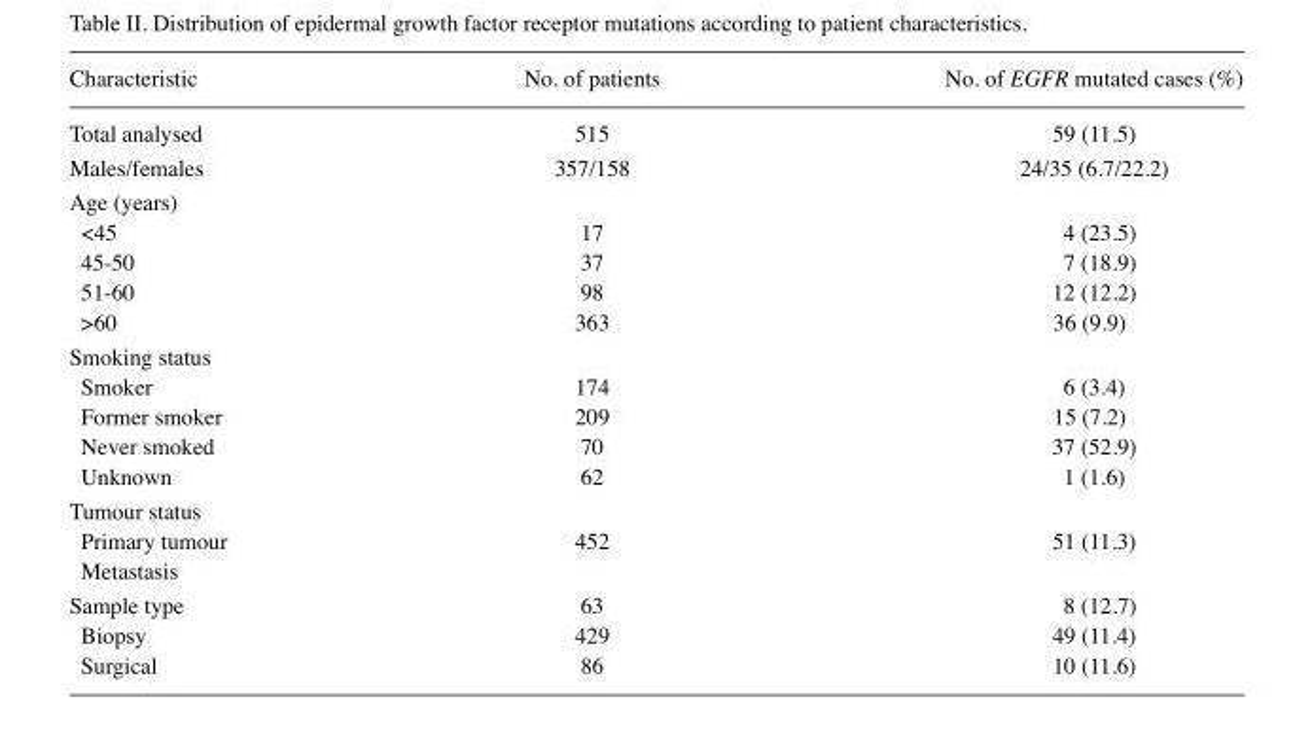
<table><thead><tr><td>Characteristic</td><td>No. of patients</td><td>No. of EGFR mutated cases (%)</td></tr></thead><tbody><tr><td>Total analysed</td><td>515</td><td>59 (11.5)</td></tr><tr><td>Males/females</td><td>357/158</td><td>24/35 (6.7/22.2)</td></tr><tr><td colspan="3">Age (years)</td></tr><tr><td>&lt;45</td><td>17</td><td>4 (23.5)</td></tr><tr><td>45‑50</td><td>37</td><td>7 (18.9)</td></tr><tr><td>51‑60</td><td>98</td><td>12 (12.2)</td></tr><tr><td>&gt;60</td><td>363</td><td>36 (9.9)</td></tr><tr><td colspan="3">Smoking status</td></tr><tr><td>Smoker</td><td>174</td><td>6 (3.4)</td></tr><tr><td>Former smoker</td><td>209</td><td>15 (7.2)</td></tr><tr><td>Never smoked</td><td>70</td><td>37 (52.9)</td></tr><tr><td>Unknown</td><td>62</td><td>1 (1.6)</td></tr><tr><td colspan="3">Tumour status</td></tr><tr><td>Primary tumour</td><td>452</td><td>51 (11.3)</td></tr><tr><td colspan="3">Metastasis</td></tr><tr><td>Sample type</td><td>63</td><td>8 (12.7)</td></tr><tr><td>Biopsy</td><td>429</td><td>49 (11.4)</td></tr><tr><td>Surgical</td><td>86</td><td>10 (11.6)</td></tr></tbody></table>